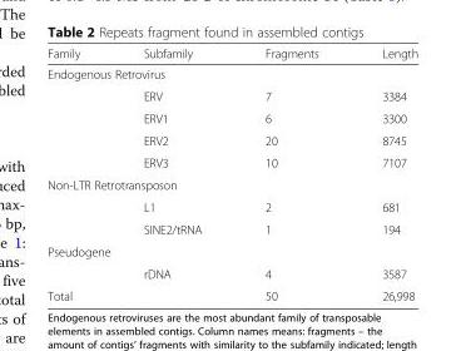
<table><thead><tr><td>Family</td><td>Subfamily</td><td>Fragments</td><td>Length</td></tr></thead><tbody><tr><td colspan="4">Endogenous Retrovirus</td></tr><tr><td rowspan="4"></td><td>ERV</td><td>7</td><td>3384</td></tr><tr><td>ERV1</td><td>6</td><td>3300</td></tr><tr><td>ERV2</td><td>20</td><td>8745</td></tr><tr><td>ERV3</td><td>10</td><td>7107</td></tr><tr><td colspan="4">Non-LTR Retrotransposon</td></tr><tr><td rowspan="2"></td><td>L1</td><td>2</td><td>681</td></tr><tr><td>SINE2/tRNA</td><td>1</td><td>194</td></tr><tr><td colspan="4">Pseudogene</td></tr><tr><td></td><td>rDNA</td><td>4</td><td>3587</td></tr><tr><td>Total</td><td></td><td>50</td><td>26,998</td></tr></tbody></table>